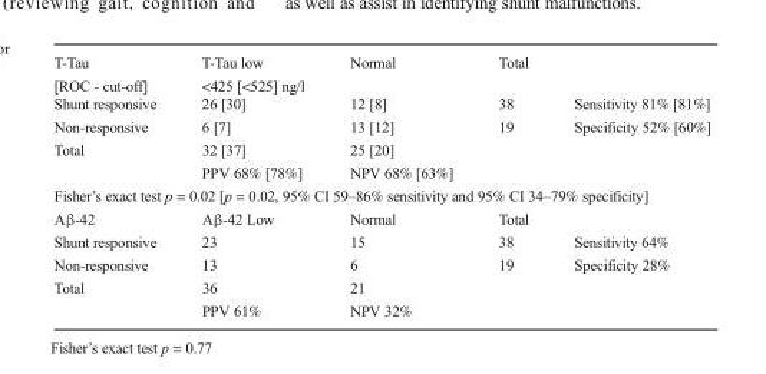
<table><tbody><tr><td>T-Tau [ROC - cut-off]</td><td>T-Tau low &lt;425 [&lt;525] ng/l</td><td>Normal</td><td>Total</td><td></td></tr><tr><td>Shunt responsive</td><td>26 [30]</td><td>12 [8]</td><td>38</td><td>Sensitivity 81% [81%]</td></tr><tr><td>Non-responsive</td><td>6 [7]</td><td>13 [12]</td><td>19</td><td>Specificity 52% [60%]</td></tr><tr><td rowspan="2">Total</td><td>32 [37]</td><td>25 [20]</td><td></td><td></td></tr><tr><td>PPV 68% [78%]</td><td>NPV 68% [63%]</td><td></td><td></td></tr><tr><td colspan="5">Fisher’s exact test p = 0.02 [p = 0.02, 95% CI 59–86% sensitivity and 95% CI 34–79% specificity]</td></tr><tr><td>Aβ-42</td><td>Aβ-42 Low</td><td>Normal</td><td>Total</td><td></td></tr><tr><td>Shunt responsive</td><td>23</td><td>15</td><td>38</td><td>Sensitivity 64%</td></tr><tr><td>Non-responsive</td><td>13</td><td>6</td><td>19</td><td>Specificity 28%</td></tr><tr><td rowspan="2">Total</td><td>36</td><td>21</td><td></td><td></td></tr><tr><td>PPV 61%</td><td>NPV 32%</td><td></td><td></td></tr></tbody></table>